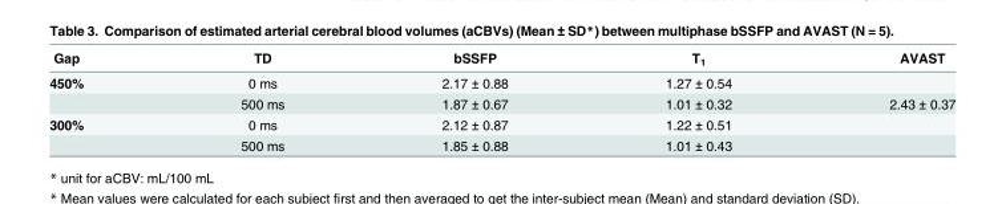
<table><thead><tr><td>Gap</td><td>TD</td><td>bSSFP</td><td>T<sub>1</sub></td><td>AVAST</td></tr></thead><tbody><tr><td rowspan="2">450%</td><td>0 ms</td><td>2.17 ± 0.88</td><td>1.27 ± 0.54</td><td></td></tr><tr><td>500 ms</td><td>1.87 ± 0.67</td><td>1.01 ± 0.32</td><td>2.43 ± 0.37</td></tr><tr><td rowspan="2">300%</td><td>0 ms</td><td>2.12 ± 0.87</td><td>1.22 ± 0.51</td><td></td></tr><tr><td>500 ms</td><td>1.85 ± 0.88</td><td>1.01 ± 0.43</td><td></td></tr></tbody></table>